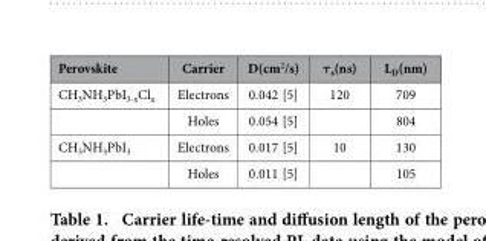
<table><thead><tr><td>Perovskite</td><td>Carrier</td><td>D(cm<sup>2</sup>/s)</td><td>τ<sub>s</sub>(ns)</td><td>L<sub>D</sub>(nm)</td></tr></thead><tbody><tr><td rowspan="2">CH<sub>3</sub>NH<sub>3</sub>PbI<sub>3-x</sub>Cl<sub>x</sub></td><td>Electrons</td><td>0.042 [5]</td><td>120</td><td>709</td></tr><tr><td>Holes</td><td>0.054 [5]</td><td></td><td>804</td></tr><tr><td rowspan="2">CH<sub>3</sub>NH<sub>3</sub>PbI<sub>3</sub></td><td>Electrons</td><td>0.017 [5]</td><td>10</td><td>130</td></tr><tr><td>Holes</td><td>0.011 [5]</td><td></td><td>105</td></tr></tbody></table>